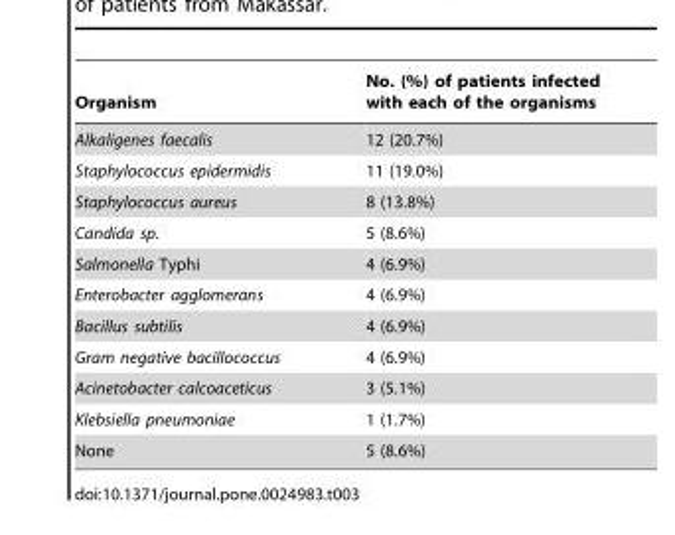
<table><thead><tr><td>Organism</td><td>No. (%) of patients infected with each of the organisms</td></tr></thead><tbody><tr><td>Alkaligenes faecalis</td><td>12 (20.7%)</td></tr><tr><td>Staphylococcus epidermidis</td><td>11 (19.0%)</td></tr><tr><td>Staphylococcus aureus</td><td>8 (13.8%)</td></tr><tr><td>Candida sp.</td><td>5 (8.6%)</td></tr><tr><td>Salmonella Typhi</td><td>4 (6.9%)</td></tr><tr><td>Enterobacter agglomerans</td><td>4 (6.9%)</td></tr><tr><td>Bacillus subtilis</td><td>4 (6.9%)</td></tr><tr><td>Gram negative bacillococcus</td><td>4 (6.9%)</td></tr><tr><td>Acinetobacter calcoaceticus</td><td>3 (5.1%)</td></tr><tr><td>Klebsiella pneumoniae</td><td>1 (1.7%)</td></tr><tr><td>None</td><td>5 (8.6%)</td></tr></tbody></table>